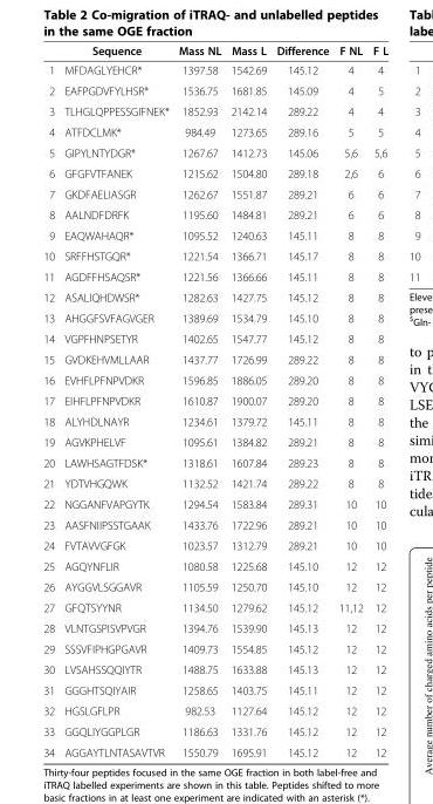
<table><thead><tr><td></td><td>Sequence</td><td>Mass NL</td><td>Mass L</td><td>Difference</td><td>F NL</td><td>F L</td></tr></thead><tbody><tr><td>1</td><td>MFDAGLYEHCR*</td><td>1397.58</td><td>1542.69</td><td>145.12</td><td>4</td><td>4</td></tr><tr><td>2</td><td>EAFPGDVFYLHSR*</td><td>1536.75</td><td>1681.85</td><td>145.09</td><td>4</td><td>5</td></tr><tr><td>3</td><td>TLHGLQPPESSGIFNEK*</td><td>1852.93</td><td>2142.14</td><td>289.22</td><td>4</td><td>4</td></tr><tr><td>4</td><td>ATFDCLMK*</td><td>984.49</td><td>1273.65</td><td>289.16</td><td>5</td><td>5</td></tr><tr><td>5</td><td>GIPYLNTYDGR*</td><td>1267.67</td><td>1412.73</td><td>145.06</td><td>5,6</td><td>5,6</td></tr><tr><td>6</td><td>GFGFVTFANEK</td><td>1215.62</td><td>1504.80</td><td>289.18</td><td>2,6</td><td>6</td></tr><tr><td>7</td><td>GKDFAELIASGR</td><td>1262.67</td><td>1551.87</td><td>289.21</td><td>6</td><td>6</td></tr><tr><td>8</td><td>AALNDFDRFK</td><td>1195.60</td><td>1484.81</td><td>289.21</td><td>6</td><td>6</td></tr><tr><td>9</td><td>EAQWAHAQR*</td><td>1095.52</td><td>1240.63</td><td>145.11</td><td>8</td><td>8</td></tr><tr><td>10</td><td>SRFFHSTGQR*</td><td>1221.54</td><td>1366.71</td><td>145.17</td><td>8</td><td>8</td></tr><tr><td>11</td><td>AGDFFHSAQSR*</td><td>1221.56</td><td>1366.66</td><td>145.11</td><td>8</td><td>8</td></tr><tr><td>12</td><td>ASALIQHDWSR*</td><td>1282.63</td><td>1427.75</td><td>145.12</td><td>8</td><td>8</td></tr><tr><td>13</td><td>AHGGFSVFAGVGER</td><td>1389.69</td><td>1534.79</td><td>145.10</td><td>8</td><td>8</td></tr><tr><td>14</td><td>VGPFHNPSETYR</td><td>1402.65</td><td>1547.77</td><td>145.12</td><td>8</td><td>8</td></tr><tr><td>15</td><td>GVDKEHVMLLAAR</td><td>1437.77</td><td>1726.99</td><td>289.22</td><td>8</td><td>8</td></tr><tr><td>16</td><td>EVHFLPFNPVDKR</td><td>1596.85</td><td>1886.05</td><td>289.20</td><td>8</td><td>8</td></tr><tr><td>17</td><td>EIHFLPFNPVDKR</td><td>1610.87</td><td>1900.07</td><td>289.20</td><td>8</td><td>8</td></tr><tr><td>18</td><td>ALYHDLNAYR</td><td>1234.61</td><td>1379.72</td><td>145.11</td><td>8</td><td>8</td></tr><tr><td>19</td><td>AGVKPHELVF</td><td>1095.61</td><td>1384.82</td><td>289.21</td><td>8</td><td>8</td></tr><tr><td>20</td><td>LAWHSAGTFDSK*</td><td>1318.61</td><td>1607.84</td><td>289.23</td><td>8</td><td>8</td></tr><tr><td>21</td><td>YDTVHGQWK</td><td>1132.52</td><td>1421.74</td><td>289.22</td><td>8</td><td>8</td></tr><tr><td>22</td><td>NGGANFVAPGYTK</td><td>1294.54</td><td>1583.84</td><td>289.31</td><td>10</td><td>10</td></tr><tr><td>23</td><td>AASFNIIPSSTGAAK</td><td>1433.76</td><td>1722.96</td><td>289.21</td><td>10</td><td>10</td></tr><tr><td>24</td><td>FVTAVVGFGK</td><td>1023.57</td><td>1312.79</td><td>289.21</td><td>10</td><td>10</td></tr><tr><td>25</td><td>AGQYNFLIR</td><td>1080.58</td><td>1225.68</td><td>145.10</td><td>12</td><td>12</td></tr><tr><td>26</td><td>AYGGVLSGGAVR</td><td>1105.59</td><td>1250.70</td><td>145.10</td><td>12</td><td>12</td></tr><tr><td>27</td><td>GFQTSYYNR</td><td>1134.50</td><td>1279.62</td><td>145.12</td><td>11,12</td><td>12</td></tr><tr><td>28</td><td>VLNTGSPISVPVGR</td><td>1394.76</td><td>1539.90</td><td>145.13</td><td>12</td><td>12</td></tr><tr><td>29</td><td>SSSVFIPHGPGAVR</td><td>1409.73</td><td>1554.85</td><td>145.12</td><td>12</td><td>12</td></tr><tr><td>30</td><td>LVSAHSSQQIYTR</td><td>1488.75</td><td>1633.88</td><td>145.13</td><td>12</td><td>12</td></tr><tr><td>31</td><td>GGGHTSQIYAIR</td><td>1258.65</td><td>1403.75</td><td>145.11</td><td>12</td><td>12</td></tr><tr><td>32</td><td>HGSLGFLPR</td><td>982.53</td><td>1127.64</td><td>145.12</td><td>12</td><td>12</td></tr><tr><td>33</td><td>GGQLIYGGPLGR</td><td>1186.63</td><td>1331.76</td><td>145.12</td><td>12</td><td>12</td></tr><tr><td>34</td><td>AGGAYTLNTASAVTVR</td><td>1550.79</td><td>1695.91</td><td>145.12</td><td>12</td><td>12</td></tr></tbody></table>